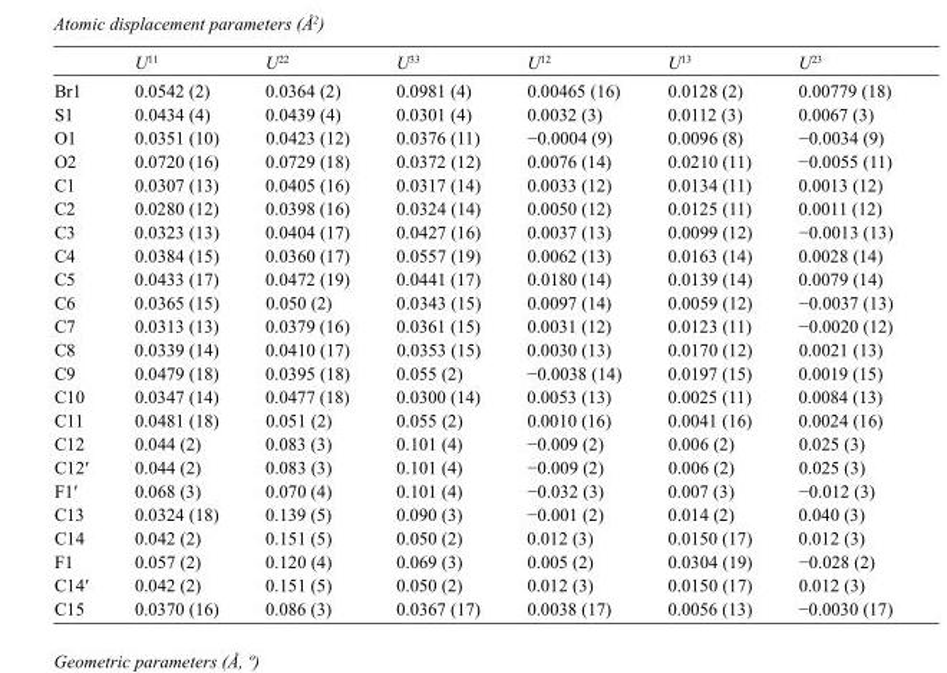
<table><thead><tr><td></td><td>U<sup>11</sup></td><td>U<sup>22</sup></td><td>U<sup>33</sup></td><td>U<sup>12</sup></td><td>U<sup>13</sup></td><td>U<sup>23</sup></td></tr></thead><tbody><tr><td>Br1</td><td>0.0542 (2)</td><td>0.0364 (2)</td><td>0.0981 (4)</td><td>0.00465 (16)</td><td>0.0128 (2)</td><td>0.00779 (18)</td></tr><tr><td>S1</td><td>0.0434 (4)</td><td>0.0439 (4)</td><td>0.0301 (4)</td><td>0.0032 (3)</td><td>0.0112 (3)</td><td>0.0067 (3)</td></tr><tr><td>O1</td><td>0.0351 (10)</td><td>0.0423 (12)</td><td>0.0376 (11)</td><td>−0.0004 (9)</td><td>0.0096 (8)</td><td>−0.0034 (9)</td></tr><tr><td>O2</td><td>0.0720 (16)</td><td>0.0729 (18)</td><td>0.0372 (12)</td><td>0.0076 (14)</td><td>0.0210 (11)</td><td>−0.0055 (11)</td></tr><tr><td>C1</td><td>0.0307 (13)</td><td>0.0405 (16)</td><td>0.0317 (14)</td><td>0.0033 (12)</td><td>0.0134 (11)</td><td>0.0013 (12)</td></tr><tr><td>C2</td><td>0.0280 (12)</td><td>0.0398 (16)</td><td>0.0324 (14)</td><td>0.0050 (12)</td><td>0.0125 (11)</td><td>0.0011 (12)</td></tr><tr><td>C3</td><td>0.0323 (13)</td><td>0.0404 (17)</td><td>0.0427 (16)</td><td>0.0037 (13)</td><td>0.0099 (12)</td><td>−0.0013 (13)</td></tr><tr><td>C4</td><td>0.0384 (15)</td><td>0.0360 (17)</td><td>0.0557 (19)</td><td>0.0062 (13)</td><td>0.0163 (14)</td><td>0.0028 (14)</td></tr><tr><td>C5</td><td>0.0433 (17)</td><td>0.0472 (19)</td><td>0.0441 (17)</td><td>0.0180 (14)</td><td>0.0139 (14)</td><td>0.0079 (14)</td></tr><tr><td>C6</td><td>0.0365 (15)</td><td>0.050 (2)</td><td>0.0343 (15)</td><td>0.0097 (14)</td><td>0.0059 (12)</td><td>−0.0037 (13)</td></tr><tr><td>C7</td><td>0.0313 (13)</td><td>0.0379 (16)</td><td>0.0361 (15)</td><td>0.0031 (12)</td><td>0.0123 (11)</td><td>−0.0020 (12)</td></tr><tr><td>C8</td><td>0.0339 (14)</td><td>0.0410 (17)</td><td>0.0353 (15)</td><td>0.0030 (13)</td><td>0.0170 (12)</td><td>0.0021 (13)</td></tr><tr><td>C9</td><td>0.0479 (18)</td><td>0.0395 (18)</td><td>0.055 (2)</td><td>−0.0038 (14)</td><td>0.0197 (15)</td><td>0.0019 (15)</td></tr><tr><td>C10</td><td>0.0347 (14)</td><td>0.0477 (18)</td><td>0.0300 (14)</td><td>0.0053 (13)</td><td>0.0025 (11)</td><td>0.0084 (13)</td></tr><tr><td>C11</td><td>0.0481 (18)</td><td>0.051 (2)</td><td>0.055 (2)</td><td>0.0010 (16)</td><td>0.0041 (16)</td><td>0.0024 (16)</td></tr><tr><td>C12</td><td>0.044 (2)</td><td>0.083 (3)</td><td>0.101 (4)</td><td>−0.009 (2)</td><td>0.006 (2)</td><td>0.025 (3)</td></tr><tr><td>C12′</td><td>0.044 (2)</td><td>0.083 (3)</td><td>0.101 (4)</td><td>−0.009 (2)</td><td>0.006 (2)</td><td>0.025 (3)</td></tr><tr><td>F1′</td><td>0.068 (3)</td><td>0.070 (4)</td><td>0.101 (4)</td><td>−0.032 (3)</td><td>0.007 (3)</td><td>−0.012 (3)</td></tr><tr><td>C13</td><td>0.0324 (18)</td><td>0.139 (5)</td><td>0.090 (3)</td><td>−0.001 (2)</td><td>0.014 (2)</td><td>0.040 (3)</td></tr><tr><td>C14</td><td>0.042 (2)</td><td>0.151 (5)</td><td>0.050 (2)</td><td>0.012 (3)</td><td>0.0150 (17)</td><td>0.012 (3)</td></tr><tr><td>F1</td><td>0.057 (2)</td><td>0.120 (4)</td><td>0.069 (3)</td><td>0.005 (2)</td><td>0.0304 (19)</td><td>−0.028 (2)</td></tr><tr><td>C14′</td><td>0.042 (2)</td><td>0.151 (5)</td><td>0.050 (2)</td><td>0.012 (3)</td><td>0.0150 (17)</td><td>0.012 (3)</td></tr><tr><td>C15</td><td>0.0370 (16)</td><td>0.086 (3)</td><td>0.0367 (17)</td><td>0.0038 (17)</td><td>0.0056 (13)</td><td>−0.0030 (17)</td></tr></tbody></table>